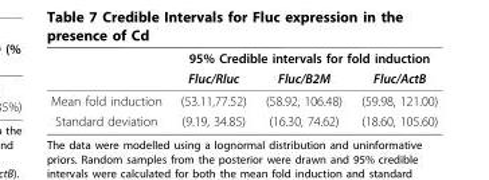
<table><thead><tr><td rowspan="2"></td><td colspan="3">95% Credible intervals for fold induction</td></tr><tr><td>Fluc/Rluc</td><td>Fluc/B2M</td><td>Fluc/ActB</td></tr></thead><tbody><tr><td>Mean fold induction</td><td>(53.11,77.52)</td><td>(58.92, 106.48)</td><td>(59.98, 121.00)</td></tr><tr><td>Standard deviation</td><td>(9.19, 34.85)</td><td>(16.30, 74.62)</td><td>(18.60, 105.60)</td></tr></tbody></table>